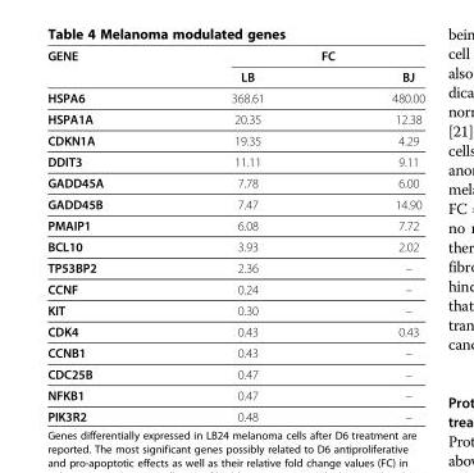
<table><thead><tr><td rowspan="2">GENE</td><td colspan="2">FC</td></tr><tr><td>LB</td><td>BJ</td></tr></thead><tbody><tr><td>HSPA6</td><td>368.61</td><td>480.00</td></tr><tr><td>HSPA1A</td><td>20.35</td><td>12.38</td></tr><tr><td>CDKN1A</td><td>19.35</td><td>4.29</td></tr><tr><td>DDIT3</td><td>11.11</td><td>9.11</td></tr><tr><td>GADD45A</td><td>7.78</td><td>6.00</td></tr><tr><td>GADD45B</td><td>7.47</td><td>14.90</td></tr><tr><td>PMAIP1</td><td>6.08</td><td>7.72</td></tr><tr><td>BCL10</td><td>3.93</td><td>2.02</td></tr><tr><td>TP53BP2</td><td>2.36</td><td>–</td></tr><tr><td>CCNF</td><td>0.24</td><td>–</td></tr><tr><td>KIT</td><td>0.30</td><td>–</td></tr><tr><td>CDK4</td><td>0.43</td><td>0.43</td></tr><tr><td>CCNB1</td><td>0.43</td><td>–</td></tr><tr><td>CDC25B</td><td>0.47</td><td>–</td></tr><tr><td>NFKB1</td><td>0.47</td><td>–</td></tr><tr><td>PIK3R2</td><td>0.48</td><td>–</td></tr></tbody></table>